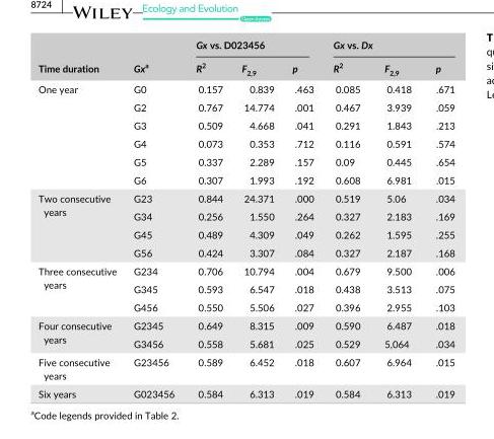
<table><thead><tr><td rowspan="2">Time duration</td><td rowspan="2">Gxa</td><td colspan="3">Gx vs. D023456</td><td colspan="3">Gx vs. Dx</td></tr><tr><td>R<sup>2</sup></td><td>F<sub>2,9</sub></td><td>p</td><td>R<sup>2</sup></td><td>F<sub>2,9</sub></td><td>p</td></tr></thead><tbody><tr><td rowspan="6">One year</td><td>G0</td><td>0.157</td><td>0.839</td><td>.463</td><td>0.085</td><td>0.418</td><td>.671</td></tr><tr><td>G2</td><td>0.767</td><td>14.774</td><td>.001</td><td>0.467</td><td>3.939</td><td>.059</td></tr><tr><td>G3</td><td>0.509</td><td>4.668</td><td>.041</td><td>0.291</td><td>1.843</td><td>.213</td></tr><tr><td>G4</td><td>0.073</td><td>0.353</td><td>.712</td><td>0.116</td><td>0.591</td><td>.574</td></tr><tr><td>G5</td><td>0.337</td><td>2.289</td><td>.157</td><td>0.09</td><td>0.445</td><td>.654</td></tr><tr><td>G6</td><td>0.307</td><td>1.993</td><td>.192</td><td>0.608</td><td>6.981</td><td>.015</td></tr><tr><td rowspan="4">Two consecutive years</td><td>G23</td><td>0.844</td><td>24.371</td><td>.000</td><td>0.519</td><td>5.06</td><td>.034</td></tr><tr><td>G34</td><td>0.256</td><td>1.550</td><td>.264</td><td>0.327</td><td>2.183</td><td>.169</td></tr><tr><td>G45</td><td>0.489</td><td>4.309</td><td>.049</td><td>0.262</td><td>1.595</td><td>.255</td></tr><tr><td>G56</td><td>0.424</td><td>3.307</td><td>.084</td><td>0.327</td><td>2.187</td><td>.168</td></tr><tr><td rowspan="3">Three consecutive years</td><td>G234</td><td>0.706</td><td>10.794</td><td>.004</td><td>0.679</td><td>9.500</td><td>.006</td></tr><tr><td>G345</td><td>0.593</td><td>6.547</td><td>.018</td><td>0.438</td><td>3.513</td><td>.075</td></tr><tr><td>G456</td><td>0.550</td><td>5.506</td><td>.027</td><td>0.396</td><td>2.955</td><td>.103</td></tr><tr><td rowspan="2">Four consecutive years</td><td>G2345</td><td>0.649</td><td>8.315</td><td>.009</td><td>0.590</td><td>6.487</td><td>.018</td></tr><tr><td>G3456</td><td>0.558</td><td>5.681</td><td>.025</td><td>0.529</td><td>5,064</td><td>.034</td></tr><tr><td>Five consecutive years</td><td>G23456</td><td>0.589</td><td>6.452</td><td>.018</td><td>0.607</td><td>6.964</td><td>.015</td></tr><tr><td>Six years</td><td>G023456</td><td>0.584</td><td>6.313</td><td>.019</td><td>0.584</td><td>6.313</td><td>.019</td></tr></tbody></table>